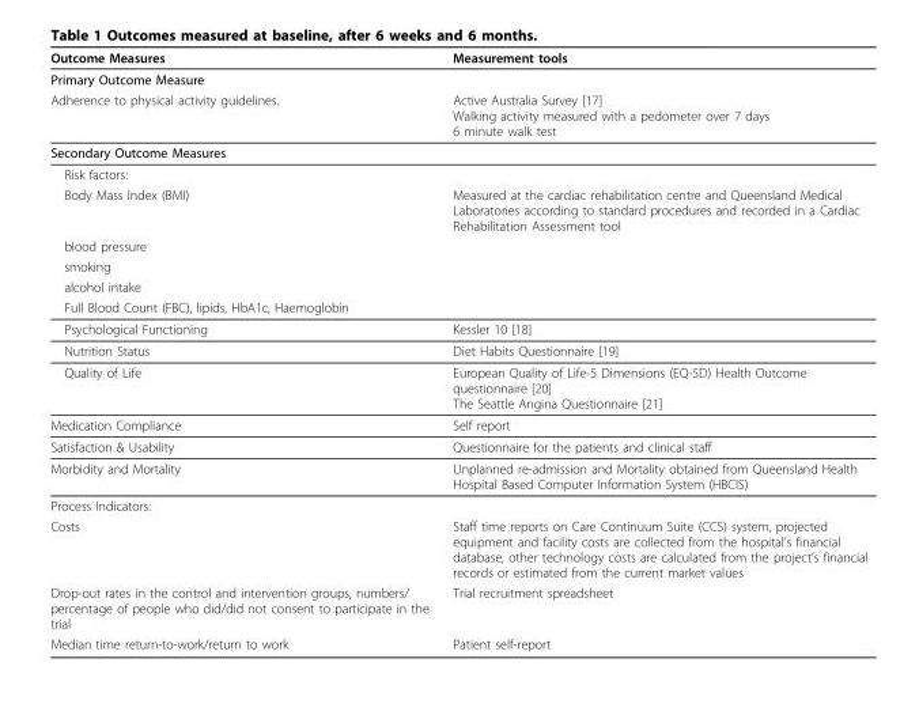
<table><thead><tr><td>Outcome Measures</td><td>Measurement tools</td></tr></thead><tbody><tr><td colspan="2">Primary Outcome Measure</td></tr><tr><td>Adherence to physical activity guidelines.</td><td>Active Australia Survey [17] Walking activity measured with a pedometer over 7 days 6 minute walk test</td></tr><tr><td colspan="2">Secondary Outcome Measures</td></tr><tr><td colspan="2">Risk factors:</td></tr><tr><td>Body Mass Index (BMI)</td><td>Measured at the cardiac rehabilitation centre and Queensland Medical Laboratories according to standard procedures and recorded in a Cardiac Rehabilitation Assessment tool</td></tr><tr><td colspan="2">blood pressure</td></tr><tr><td colspan="2">smoking</td></tr><tr><td colspan="2">alcohol intake</td></tr><tr><td colspan="2">Full Blood Count (FBC), lipids, HbA1c, Haemoglobin</td></tr><tr><td>Psychological Functioning</td><td>Kessler 10 [18]</td></tr><tr><td>Nutrition Status</td><td>Diet Habits Questionnaire [19]</td></tr><tr><td>Quality of Life</td><td>European Quality of Life-5 Dimensions (EQ-5D) Health Outcome questionnaire [20] The Seattle Angina Questionnaire [21]</td></tr><tr><td>Medication Compliance</td><td>Self report</td></tr><tr><td>Satisfaction &amp; Usability</td><td>Questionnaire for the patients and clinical staff</td></tr><tr><td>Morbidity and Mortality</td><td>Unplanned re-admission and Mortality obtained from Queensland Health Hospital Based Computer Information System (HBCIS)</td></tr><tr><td colspan="2">Process Indicators:</td></tr><tr><td>Costs</td><td>Staff time reports on Care Continuum Suite (CCS) system, projected equipment and facility costs are collected from the hospital’s financial database, other technology costs are calculated from the project’s financial records or estimated from the current market values</td></tr><tr><td>Drop-out rates in the control and intervention groups, numbers/ percentage of people who did/did not consent to participate in the trial</td><td>Trial recruitment spreadsheet</td></tr><tr><td>Median time return-to-work/return to work</td><td>Patient self-report</td></tr></tbody></table>